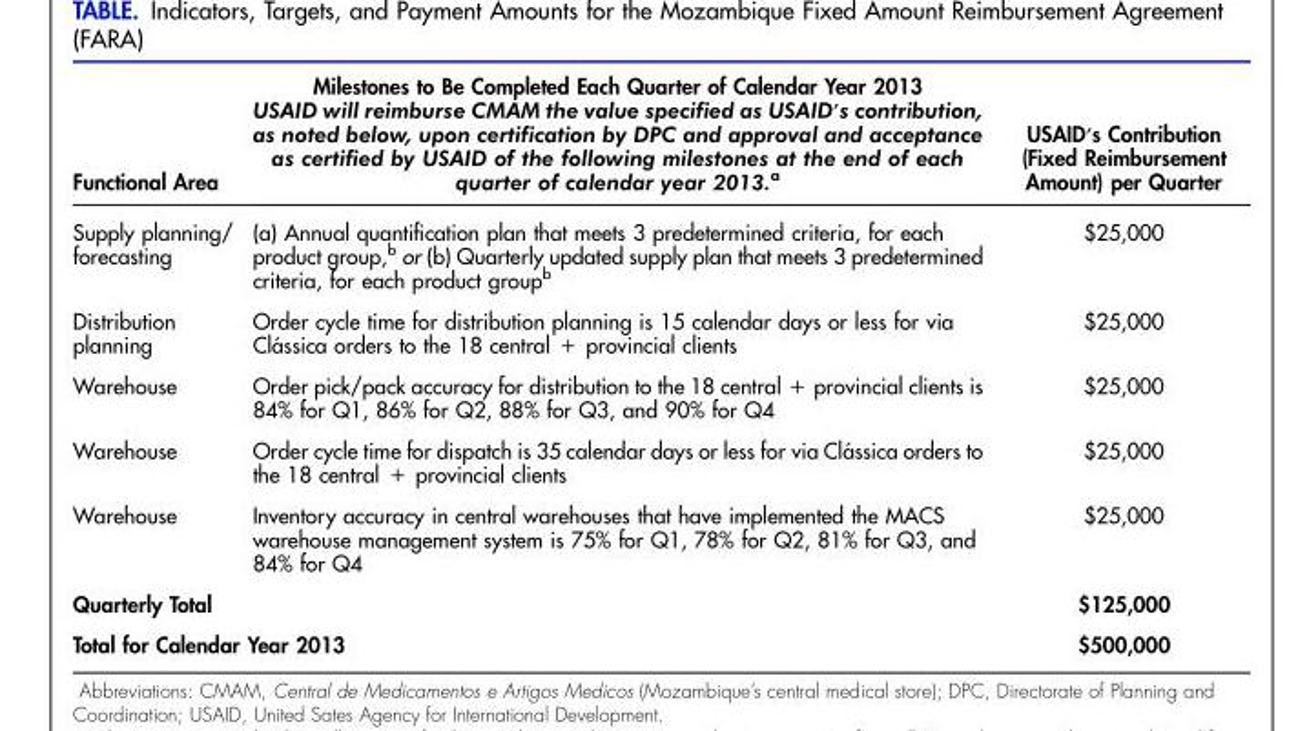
<table><thead><tr><td>Functional Area</td><td>Milestones to Be Completed Each Quarter of Calendar Year 2013 USAID will reimburse CMAM the value specified as USAID’s contribution, as noted below, upon certification by DPC and approval and acceptance as certified by USAID of the following milestones at the end of each quarter of calendar year 2013.a</td><td>USAID’s Contribution (Fixed Reimbursement Amount) per Quarter</td></tr></thead><tbody><tr><td>Supply planning/ forecasting</td><td>(a) Annual quantification plan that meets 3 predetermined criteria, for each product group,<sup>b</sup> or (b) Quarterly updated supply plan that meets 3 predetermined criteria, for each product group<sup>b</sup></td><td>$25,000</td></tr><tr><td>Distribution planning</td><td>Order cycle time for distribution planning is 15 calendar days or less for via Cla´ssica orders to the 18 central + provincial clients</td><td>$25,000</td></tr><tr><td>Warehouse</td><td>Order pick/pack accuracy for distribution to the 18 central + provincial clients is 84% for Q1, 86% for Q2, 88% for Q3, and 90% for Q4</td><td>$25,000</td></tr><tr><td>Warehouse</td><td>Order cycle time for dispatch is 35 calendar days or less for via Cla´ssica orders to the 18 central + provincial clients</td><td>$25,000</td></tr><tr><td>Warehouse</td><td>Inventory accuracy in central warehouses that have implemented the MACS warehouse management system is 75% for Q1, 78% for Q2, 81% for Q3, and 84% for Q4</td><td>$25,000</td></tr><tr><td colspan="2">Quarterly Total</td><td>$125,000</td></tr><tr><td colspan="2">Total for Calendar Year 2013</td><td>$500,000</td></tr></tbody></table>